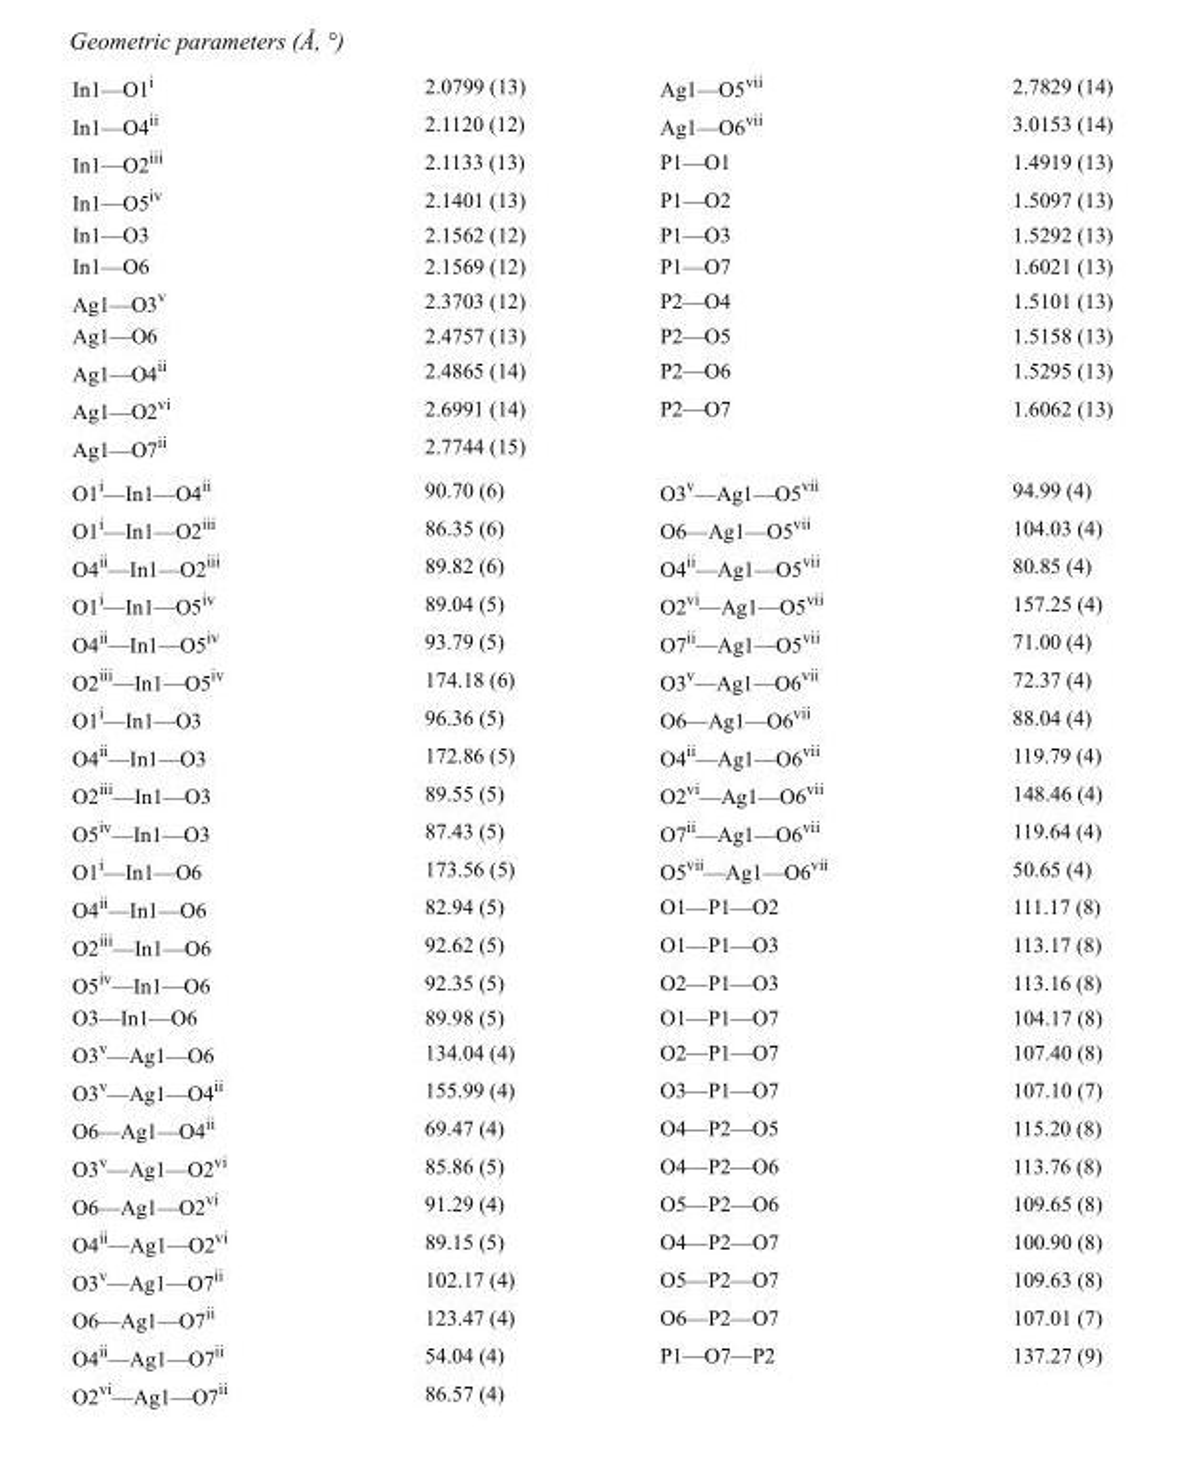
<table><tbody><tr><td>In1—O1<sup>i</sup></td><td>2.0799 (13)</td><td>Ag1—O5<sup>vii</sup></td><td>2.7829 (14)</td></tr><tr><td>In1—O4<sup>ii</sup></td><td>2.1120 (12)</td><td>Ag1—O6<sup>vii</sup></td><td>3.0153 (14)</td></tr><tr><td>In1—O2<sup>iii</sup></td><td>2.1133 (13)</td><td>P1—O1</td><td>1.4919 (13)</td></tr><tr><td>In1—O5<sup>iv</sup></td><td>2.1401 (13)</td><td>P1—O2</td><td>1.5097 (13)</td></tr><tr><td>In1—O3</td><td>2.1562 (12)</td><td>P1—O3</td><td>1.5292 (13)</td></tr><tr><td>In1—O6</td><td>2.1569 (12)</td><td>P1—O7</td><td>1.6021 (13)</td></tr><tr><td>Ag1—O3<sup>v</sup></td><td>2.3703 (12)</td><td>P2—O4</td><td>1.5101 (13)</td></tr><tr><td>Ag1—O6</td><td>2.4757 (13)</td><td>P2—O5</td><td>1.5158 (13)</td></tr><tr><td>Ag1—O4<sup>ii</sup></td><td>2.4865 (14)</td><td>P2—O6</td><td>1.5295 (13)</td></tr><tr><td>Ag1—O2<sup>vi</sup></td><td>2.6991 (14)</td><td>P2—O7</td><td>1.6062 (13)</td></tr><tr><td>Ag1—O7<sup>ii</sup></td><td>2.7744 (15)</td><td></td><td></td></tr><tr><td>O1<sup>i</sup>—In1—O4<sup>ii</sup></td><td>90.70 (6)</td><td>O3<sup>v</sup>—Ag1—O5<sup>vii</sup></td><td>94.99 (4)</td></tr><tr><td>O1<sup>i</sup>—In1—O2<sup>iii</sup></td><td>86.35 (6)</td><td>O6—Ag1—O5<sup>vii</sup></td><td>104.03 (4)</td></tr><tr><td>O4<sup>ii</sup>—In1—O2<sup>iii</sup></td><td>89.82 (6)</td><td>O4<sup>ii</sup>—Ag1—O5<sup>vii</sup></td><td>80.85 (4)</td></tr><tr><td>O1<sup>i</sup>—In1—O5<sup>iv</sup></td><td>89.04 (5)</td><td>O2<sup>vi</sup>—Ag1—O5<sup>vii</sup></td><td>157.25 (4)</td></tr><tr><td>O4<sup>ii</sup>—In1—O5<sup>iv</sup></td><td>93.79 (5)</td><td>O7<sup>ii</sup>—Ag1—O5<sup>vii</sup></td><td>71.00 (4)</td></tr><tr><td>O2<sup>iii</sup>—In1—O5<sup>iv</sup></td><td>174.18 (6)</td><td>O3<sup>v</sup>—Ag1—O6<sup>vii</sup></td><td>72.37 (4)</td></tr><tr><td>O1<sup>i</sup>—In1—O3</td><td>96.36 (5)</td><td>O6—Ag1—O6<sup>vii</sup></td><td>88.04 (4)</td></tr><tr><td>O4<sup>ii</sup>—In1—O3</td><td>172.86 (5)</td><td>O4<sup>ii</sup>—Ag1—O6<sup>vii</sup></td><td>119.79 (4)</td></tr><tr><td>O2<sup>iii</sup>—In1—O3</td><td>89.55 (5)</td><td>O2<sup>vi</sup>—Ag1—O6<sup>vii</sup></td><td>148.46 (4)</td></tr><tr><td>O5<sup>iv</sup>—In1—O3</td><td>87.43 (5)</td><td>O7<sup>ii</sup>—Ag1—O6<sup>vii</sup></td><td>119.64 (4)</td></tr><tr><td>O1<sup>i</sup>—In1—O6</td><td>173.56 (5)</td><td>O5<sup>vii</sup>—Ag1—O6<sup>vii</sup></td><td>50.65 (4)</td></tr><tr><td>O4<sup>ii</sup>—In1—O6</td><td>82.94 (5)</td><td>O1—P1—O2</td><td>111.17 (8)</td></tr><tr><td>O2<sup>iii</sup>—In1—O6</td><td>92.62 (5)</td><td>O1—P1—O3</td><td>113.17 (8)</td></tr><tr><td>O5<sup>iv</sup>—In1—O6</td><td>92.35 (5)</td><td>O2—P1—O3</td><td>113.16 (8)</td></tr><tr><td>O3—In1—O6</td><td>89.98 (5)</td><td>O1—P1—O7</td><td>104.17 (8)</td></tr><tr><td>O3<sup>v</sup>—Ag1—O6</td><td>134.04 (4)</td><td>O2—P1—O7</td><td>107.40 (8)</td></tr><tr><td>O3<sup>v</sup>—Ag1—O4<sup>ii</sup></td><td>155.99 (4)</td><td>O3—P1—O7</td><td>107.10 (7)</td></tr><tr><td>O6—Ag1—O4<sup>ii</sup></td><td>69.47 (4)</td><td>O4—P2—O5</td><td>115.20 (8)</td></tr><tr><td>O3<sup>v</sup>—Ag1—O2<sup>vi</sup></td><td>85.86 (5)</td><td>O4—P2—O6</td><td>113.76 (8)</td></tr><tr><td>O6—Ag1—O2<sup>vi</sup></td><td>91.29 (4)</td><td>O5—P2—O6</td><td>109.65 (8)</td></tr><tr><td>O4<sup>ii</sup>—Ag1—O2<sup>vi</sup></td><td>89.15 (5)</td><td>O4—P2—O7</td><td>100.90 (8)</td></tr><tr><td>O3<sup>v</sup>—Ag1—O7<sup>ii</sup></td><td>102.17 (4)</td><td>O5—P2—O7</td><td>109.63 (8)</td></tr><tr><td>O6—Ag1—O7<sup>ii</sup></td><td>123.47 (4)</td><td>O6—P2—O7</td><td>107.01 (7)</td></tr><tr><td>O4<sup>ii</sup>—Ag1—O7<sup>ii</sup></td><td>54.04 (4)</td><td>P1—O7—P2</td><td>137.27 (9)</td></tr><tr><td>O2<sup>vi</sup>—Ag1—O7<sup>ii</sup></td><td>86.57 (4)</td><td></td><td></td></tr></tbody></table>